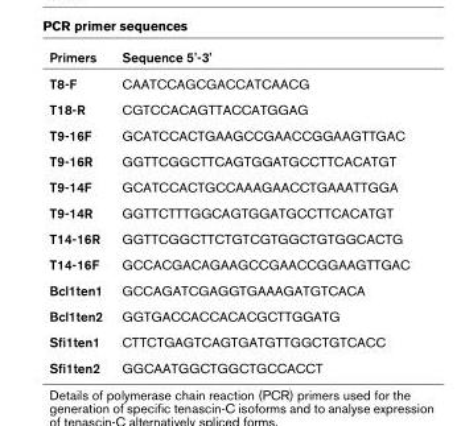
<table><thead><tr><td>Primers</td><td>Sequence 5&#x27;-3&#x27;</td></tr></thead><tbody><tr><td>T8-F</td><td>CAATCCAGCGACCATCAACG</td></tr><tr><td>T18-R</td><td>CGTCCACAGTTACCATGGAG</td></tr><tr><td>T9-16F</td><td>GCATCCACTGAAGCCGAACCGGAAGTTGAC</td></tr><tr><td>T9-16R</td><td>GGTTCGGCTTCAGTGGATGCCTTCACATGT</td></tr><tr><td>T9-14F</td><td>GCATCCACTGCCAAAGAACCTGAAATTGGA</td></tr><tr><td>T9-14R</td><td>GGTTCTTTGGCAGTGGATGCCTTCACATGT</td></tr><tr><td>T14-16R</td><td>GGTTCGGCTTCTGTCGTGGCTGTGGCACTG</td></tr><tr><td>T14-16F</td><td>GCCACGACAGAAGCCGAACCGGAAGTTGAC</td></tr><tr><td>Bcl1ten1</td><td>GCCAGATCGAGGTGAAAGATGTCACA</td></tr><tr><td>Bcl1ten2</td><td>GGTGACCACCACACGCTTGGATG</td></tr><tr><td>Sfi1ten1</td><td>CTTCTGAGTCAGTGATGTTGGCTGTCACC</td></tr><tr><td>Sfi1ten2</td><td>GGCAATGGCTGGCTGCCACCT</td></tr></tbody></table>